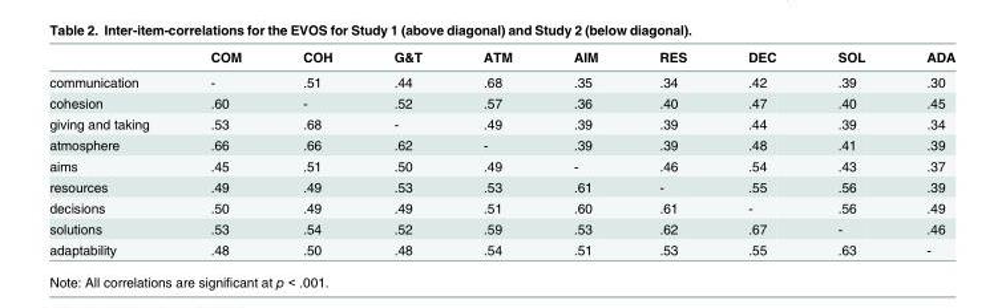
<table><thead><tr><td></td><td>COM</td><td>COH</td><td>G&amp;T</td><td>ATM</td><td>AIM</td><td>RES</td><td>DEC</td><td>SOL</td><td>ADA</td></tr></thead><tbody><tr><td>communication</td><td>-</td><td>.51</td><td>.44</td><td>.68</td><td>.35</td><td>.34</td><td>.42</td><td>.39</td><td>.30</td></tr><tr><td>cohesion</td><td>.60</td><td>-</td><td>.52</td><td>.57</td><td>.36</td><td>.40</td><td>.47</td><td>.40</td><td>.45</td></tr><tr><td>giving and taking</td><td>.53</td><td>.68</td><td>-</td><td>.49</td><td>.39</td><td>.39</td><td>.44</td><td>.39</td><td>.34</td></tr><tr><td>atmosphere</td><td>.66</td><td>.66</td><td>.62</td><td>-</td><td>.39</td><td>.39</td><td>.48</td><td>.41</td><td>.39</td></tr><tr><td>aims</td><td>.45</td><td>.51</td><td>.50</td><td>.49</td><td>-</td><td>.46</td><td>.54</td><td>.43</td><td>.37</td></tr><tr><td>resources</td><td>.49</td><td>.49</td><td>.53</td><td>.53</td><td>.61</td><td>-</td><td>.55</td><td>.56</td><td>.39</td></tr><tr><td>decisions</td><td>.50</td><td>.49</td><td>.49</td><td>.51</td><td>.60</td><td>.61</td><td>-</td><td>.56</td><td>.49</td></tr><tr><td>solutions</td><td>.53</td><td>.54</td><td>.52</td><td>.59</td><td>.53</td><td>.62</td><td>.67</td><td>-</td><td>.46</td></tr><tr><td>adaptability</td><td>.48</td><td>.50</td><td>.48</td><td>.54</td><td>.51</td><td>.53</td><td>.55</td><td>.63</td><td>-</td></tr></tbody></table>